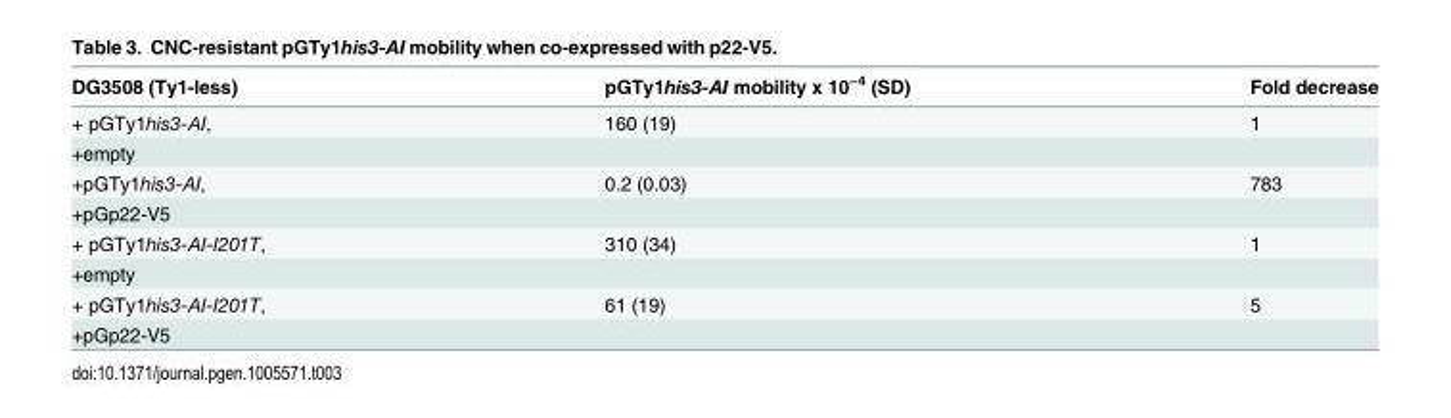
<table><thead><tr><td>DG3508 (Ty1-less)</td><td>pGTy1his3-AI mobility x 10<sup>−4</sup> (SD)</td><td>Fold decrease</td></tr></thead><tbody><tr><td>+ pGTy1his3-AI,</td><td>160 (19)</td><td>1</td></tr><tr><td colspan="3">+empty</td></tr><tr><td>+pGTy1his3-AI,</td><td>0.2 (0.03)</td><td>783</td></tr><tr><td colspan="3">+pGp22-V5</td></tr><tr><td>+ pGTy1his3-AI-I201T,</td><td>310 (34)</td><td>1</td></tr><tr><td colspan="3">+empty</td></tr><tr><td>+ pGTy1his3-AI-I201T,</td><td>61 (19)</td><td>5</td></tr><tr><td>+pGp22-V5</td><td></td><td></td></tr></tbody></table>